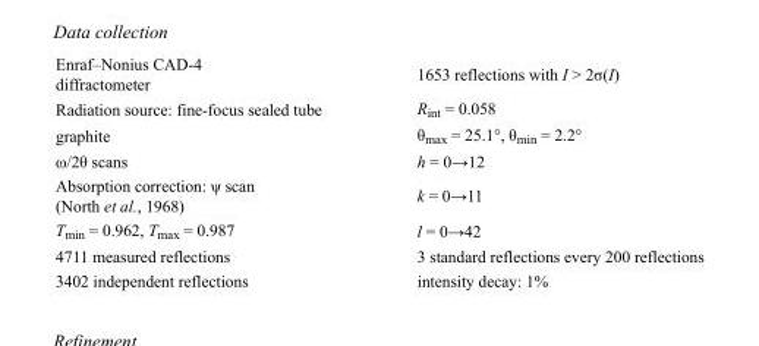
<table><tbody><tr><td>Enraf–Nonius CAD-4 diffractometer</td><td>1653 reflections with I &gt; 2σ(I)</td></tr><tr><td>Radiation source: fine-focus sealed tube</td><td>R<sub>int</sub> = 0.058</td></tr><tr><td>graphite</td><td>θ<sub>max</sub> = 25.1°, θ<sub>min</sub> = 2.2°</td></tr><tr><td>ω/2θ scans</td><td>h = 0→12</td></tr><tr><td>Absorption correction: ψ scan (North et al., 1968)</td><td>k = 0→11</td></tr><tr><td>T<sub>min</sub> = 0.962, T<sub>max</sub> = 0.987</td><td>l = 0→42</td></tr><tr><td>4711 measured reflections</td><td>3 standard reflections every 200 reflections</td></tr><tr><td>3402 independent reflections</td><td>intensity decay: 1%</td></tr></tbody></table>